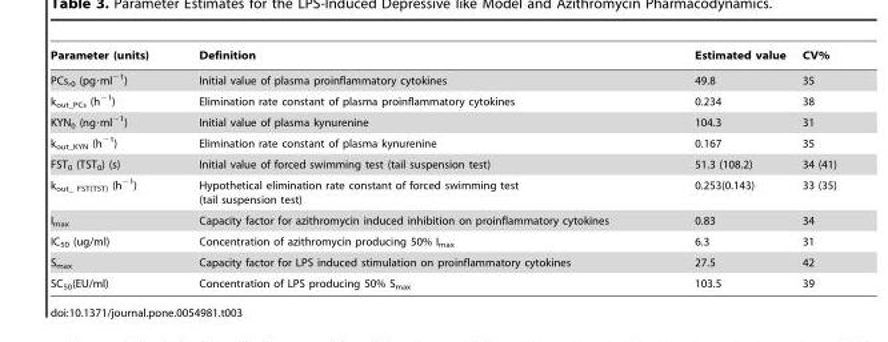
<table><thead><tr><td>Parameter (units)</td><td>Definition</td><td>Estimated value</td><td>CV%</td></tr></thead><tbody><tr><td>PCs,<sub>0</sub> (pg·ml<sup>−1</sup>)</td><td>Initial value of plasma proinflammatory cytokines</td><td>49.8</td><td>35</td></tr><tr><td>k<sub>out_PCs</sub> (h<sup>−1</sup>)</td><td>Elimination rate constant of plasma proinflammatory cytokines</td><td>0.234</td><td>38</td></tr><tr><td>KYN<sub>0</sub> (ng·ml<sup>−1</sup>)</td><td>Initial value of plasma kynurenine</td><td>104.3</td><td>31</td></tr><tr><td>k<sub>out_KYN</sub> (h<sup>−1</sup>)</td><td>Elimination rate constant of plasma kynurenine</td><td>0.167</td><td>35</td></tr><tr><td>FST<sub>0</sub> (TST<sub>0</sub>) (s)</td><td>Initial value of forced swimming test (tail suspension test)</td><td>51.3 (108.2)</td><td>34 (41)</td></tr><tr><td>k<sub>out_ FST(TST)</sub> (h<sup>−1</sup>)</td><td>Hypothetical elimination rate constant of forced swimming test (tail suspension test)</td><td>0.253(0.143)</td><td>33 (35)</td></tr><tr><td>I<sub>max</sub></td><td>Capacity factor for azithromycin induced inhibition on proinflammatory cytokines</td><td>0.83</td><td>34</td></tr><tr><td>IC<sub>50</sub> (ug/ml)</td><td>Concentration of azithromycin producing 50% I<sub>max</sub></td><td>6.3</td><td>31</td></tr><tr><td>S<sub>max</sub></td><td>Capacity factor for LPS induced stimulation on proinflammatory cytokines</td><td>27.5</td><td>42</td></tr><tr><td>SC<sub>50</sub>(EU/ml)</td><td>Concentration of LPS producing 50% S<sub>max</sub></td><td>103.5</td><td>39</td></tr></tbody></table>